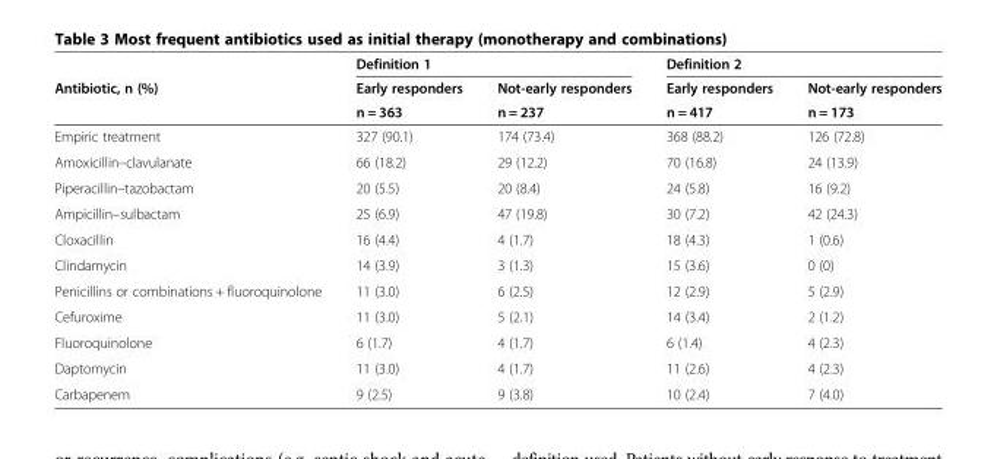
<table><thead><tr><td rowspan="3">Antibiotic, n (%)</td><td colspan="2">Definition 1</td><td colspan="2">Definition 2</td></tr><tr><td rowspan="2">Early responders n = 363</td><td rowspan="2">Not-early responders n = 237</td><td rowspan="2">Early responders n = 417</td><td rowspan="2">Not-early responders n = 173</td></tr><tr></tr></thead><tbody><tr><td>Empiric treatment</td><td>327 (90.1)</td><td>174 (73.4)</td><td>368 (88.2)</td><td>126 (72.8)</td></tr><tr><td>Amoxicillin–clavulanate</td><td>66 (18.2)</td><td>29 (12.2)</td><td>70 (16.8)</td><td>24 (13.9)</td></tr><tr><td>Piperacillin–tazobactam</td><td>20 (5.5)</td><td>20 (8.4)</td><td>24 (5.8)</td><td>16 (9.2)</td></tr><tr><td>Ampicillin–sulbactam</td><td>25 (6.9)</td><td>47 (19.8)</td><td>30 (7.2)</td><td>42 (24.3)</td></tr><tr><td>Cloxacillin</td><td>16 (4.4)</td><td>4 (1.7)</td><td>18 (4.3)</td><td>1 (0.6)</td></tr><tr><td>Clindamycin</td><td>14 (3.9)</td><td>3 (1.3)</td><td>15 (3.6)</td><td>0 (0)</td></tr><tr><td>Penicillins or combinations + fluoroquinolone</td><td>11 (3.0)</td><td>6 (2.5)</td><td>12 (2.9)</td><td>5 (2.9)</td></tr><tr><td>Cefuroxime</td><td>11 (3.0)</td><td>5 (2.1)</td><td>14 (3.4)</td><td>2 (1.2)</td></tr><tr><td>Fluoroquinolone</td><td>6 (1.7)</td><td>4 (1.7)</td><td>6 (1.4)</td><td>4 (2.3)</td></tr><tr><td>Daptomycin</td><td>11 (3.0)</td><td>4 (1.7)</td><td>11 (2.6)</td><td>4 (2.3)</td></tr><tr><td>Carbapenem</td><td>9 (2.5)</td><td>9 (3.8)</td><td>10 (2.4)</td><td>7 (4.0)</td></tr></tbody></table>